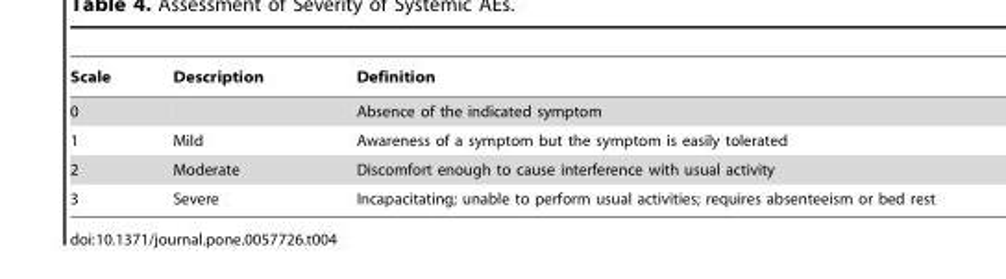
<table><thead><tr><td>Scale</td><td>Description</td><td>Definition</td></tr></thead><tbody><tr><td>0</td><td></td><td>Absence of the indicated symptom</td></tr><tr><td>1</td><td>Mild</td><td>Awareness of a symptom but the symptom is easily tolerated</td></tr><tr><td>2</td><td>Moderate</td><td>Discomfort enough to cause interference with usual activity</td></tr><tr><td>3</td><td>Severe</td><td>Incapacitating; unable to perform usual activities; requires absenteeism or bed rest</td></tr></tbody></table>